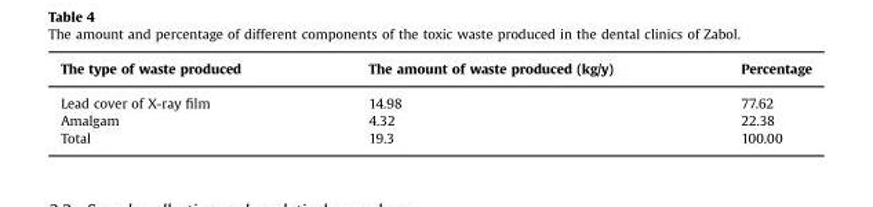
<table><thead><tr><td>The type of waste produced</td><td>The amount of waste produced (kg/y)</td><td>Percentage</td></tr></thead><tbody><tr><td>Lead cover of X-ray film</td><td>14.98</td><td>77.62</td></tr><tr><td>Amalgam</td><td>4.32</td><td>22.38</td></tr><tr><td>Total</td><td>19.3</td><td>100.00</td></tr></tbody></table>